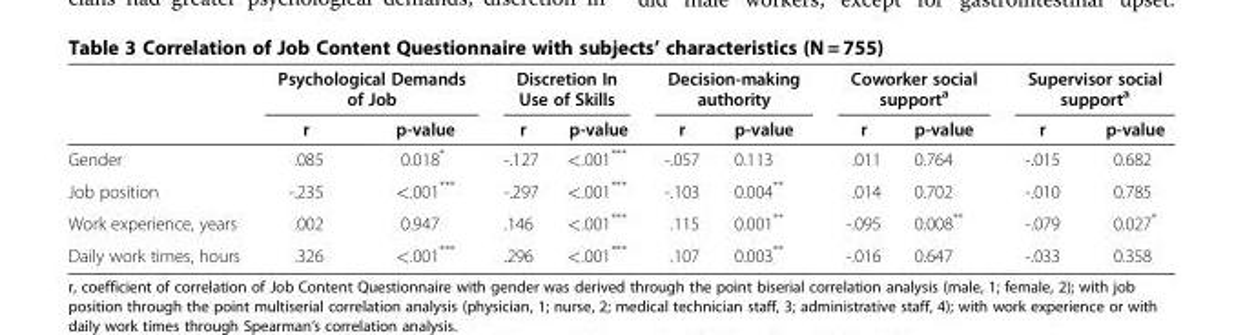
<table><thead><tr><td rowspan="2"></td><td colspan="2">Psychological Demands of Job</td><td colspan="2">Discretion In Use of Skills</td><td colspan="2">Decision-making authority</td><td colspan="2">Coworker social support<sup>a</sup></td><td colspan="2">Supervisor social support<sup>a</sup></td></tr><tr><td>r</td><td>p-value</td><td>r</td><td>p-value</td><td>r</td><td>p-value</td><td>r</td><td>p-value</td><td>r</td><td>p-value</td></tr></thead><tbody><tr><td>Gender</td><td>.085</td><td>0.018*</td><td>-.127</td><td>&lt;.001***</td><td>-.057</td><td>0.113</td><td>.011</td><td>0.764</td><td>-.015</td><td>0.682</td></tr><tr><td>Job position</td><td>-.235</td><td>&lt;.001***</td><td>-.297</td><td>&lt;.001***</td><td>-.103</td><td>0.004**</td><td>.014</td><td>0.702</td><td>-.010</td><td>0.785</td></tr><tr><td>Work experience, years</td><td>.002</td><td>0.947</td><td>.146</td><td>&lt;.001***</td><td>.115</td><td>0.001**</td><td>-.095</td><td>0.008**</td><td>-.079</td><td>0.027*</td></tr><tr><td>Daily work times, hours</td><td>.326</td><td>&lt;.001***</td><td>.296</td><td>&lt;.001***</td><td>.107</td><td>0.003**</td><td>-.016</td><td>0.647</td><td>-.033</td><td>0.358</td></tr></tbody></table>